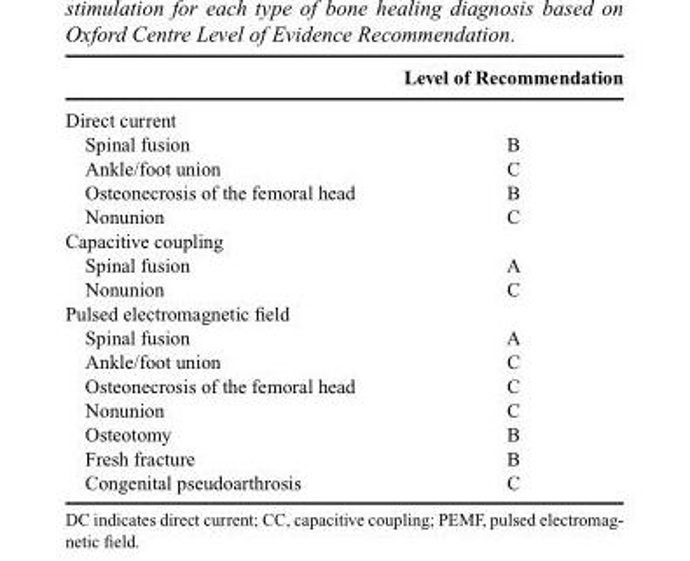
<table><thead><tr><td></td><td>Level of Recommendation</td></tr></thead><tbody><tr><td colspan="2">Direct current</td></tr><tr><td>Spinal fusion</td><td>B</td></tr><tr><td>Ankle/foot union</td><td>C</td></tr><tr><td>Osteonecrosis of the femoral head</td><td>B</td></tr><tr><td>Nonunion</td><td>C</td></tr><tr><td colspan="2">Capacitive coupling</td></tr><tr><td>Spinal fusion</td><td>A</td></tr><tr><td>Nonunion</td><td>C</td></tr><tr><td colspan="2">Pulsed electromagnetic field</td></tr><tr><td>Spinal fusion</td><td>A</td></tr><tr><td>Ankle/foot union</td><td>C</td></tr><tr><td>Osteonecrosis of the femoral head</td><td>C</td></tr><tr><td>Nonunion</td><td>C</td></tr><tr><td>Osteotomy</td><td>B</td></tr><tr><td>Fresh fracture</td><td>B</td></tr><tr><td>Congenital pseudoarthrosis</td><td>C</td></tr></tbody></table>